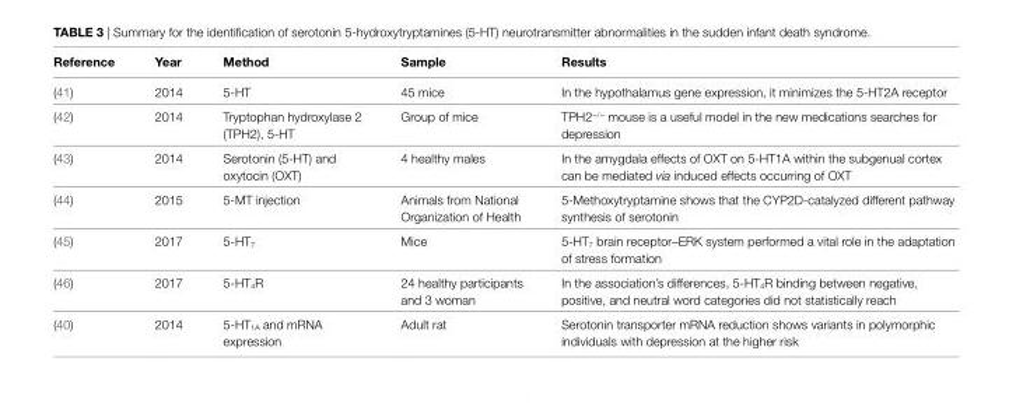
<table><thead><tr><td>Reference</td><td>Year</td><td>Method</td><td>Sample</td><td>Results</td></tr></thead><tbody><tr><td>(41)</td><td>2014</td><td>5-HT</td><td>45 mice</td><td>In the hypothalamus gene expression, it minimizes the 5-HT2A receptor</td></tr><tr><td>(42)</td><td>2014</td><td>Tryptophan hydroxylase 2 (TPH2), 5-HT</td><td>Group of mice</td><td>TPH2<sup>−/−</sup> mouse is a useful model in the new medications searches for depression</td></tr><tr><td>(43)</td><td>2014</td><td>Serotonin (5-HT) and oxytocin (OXT)</td><td>4 healthy males</td><td>In the amygdala effects of OXT on 5-HT1A within the subgenual cortex can be mediated via induced effects occurring of OXT</td></tr><tr><td>(44)</td><td>2015</td><td>5-MT injection</td><td>Animals from National Organization of Health</td><td>5-Methoxytryptamine shows that the CYP2D-catalyzed different pathway synthesis of serotonin</td></tr><tr><td>(45)</td><td>2017</td><td>5-HT<sub>7</sub></td><td>Mice</td><td>5-HT<sub>7</sub> brain receptor–ERK system performed a vital role in the adaptation of stress formation</td></tr><tr><td>(46)</td><td>2017</td><td>5-HT<sub>4</sub>R</td><td>24 healthy participants and 3 woman</td><td>In the association’s differences, 5-HT<sub>4</sub>R binding between negative, positive, and neutral word categories did not statistically reach</td></tr><tr><td>(40)</td><td>2014</td><td>5-HT<sub>1A</sub> and mRNA expression</td><td>Adult rat</td><td>Serotonin transporter mRNA reduction shows variants in polymorphic individuals with depression at the higher risk</td></tr></tbody></table>